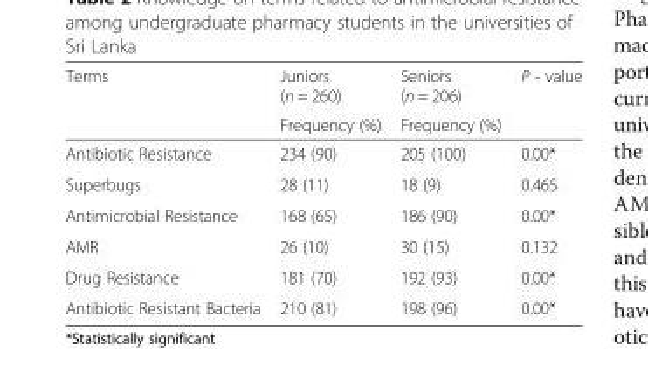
<table><thead><tr><td rowspan="2">Terms</td><td rowspan="2">Juniors (n = 260) Frequency (%)</td><td rowspan="2">Seniors (n = 206) Frequency (%)</td><td rowspan="2">P - value</td></tr><tr></tr></thead><tbody><tr><td>Antibiotic Resistance</td><td>234 (90)</td><td>205 (100)</td><td>0.00*</td></tr><tr><td>Superbugs</td><td>28 (11)</td><td>18 (9)</td><td>0.465</td></tr><tr><td>Antimicrobial Resistance</td><td>168 (65)</td><td>186 (90)</td><td>0.00*</td></tr><tr><td>AMR</td><td>26 (10)</td><td>30 (15)</td><td>0.132</td></tr><tr><td>Drug Resistance</td><td>181 (70)</td><td>192 (93)</td><td>0.00*</td></tr><tr><td>Antibiotic Resistant Bacteria</td><td>210 (81)</td><td>198 (96)</td><td>0.00*</td></tr></tbody></table>